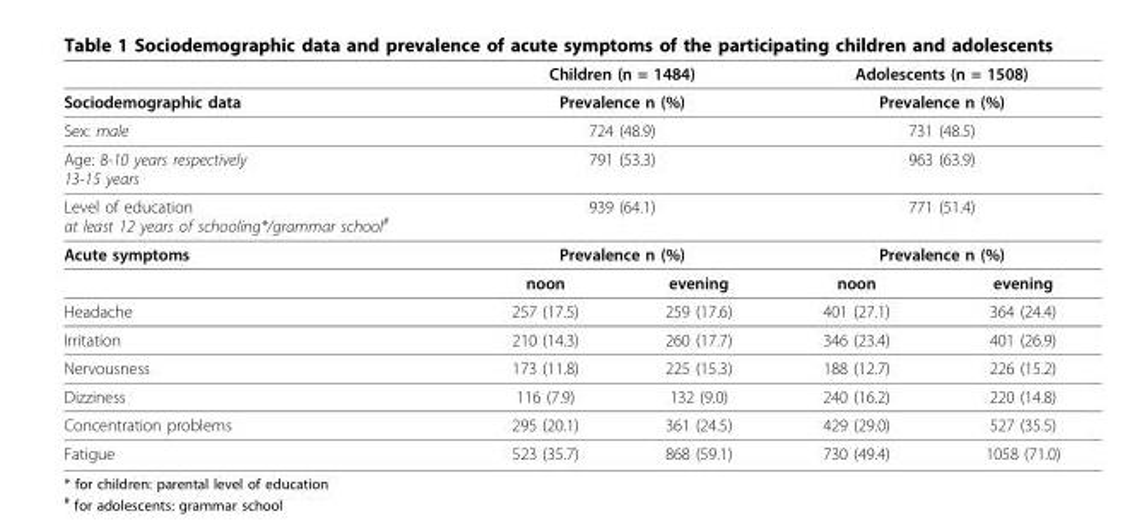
<table><thead><tr><td></td><td colspan="2">Children (n = 1484)</td><td colspan="2">Adolescents (n = 1508)</td></tr></thead><tbody><tr><td>Sociodemographic data</td><td colspan="2">Prevalence n (%)</td><td colspan="2">Prevalence n (%)</td></tr><tr><td>Sex: male</td><td colspan="2">724 (48.9)</td><td colspan="2">731 (48.5)</td></tr><tr><td>Age: 8-10 years respectively 13-15 years</td><td colspan="2">791 (53.3)</td><td colspan="2">963 (63.9)</td></tr><tr><td>Level of education at least 12 years of schooling*/grammar school<sup>#</sup></td><td colspan="2">939 (64.1)</td><td colspan="2">771 (51.4)</td></tr><tr><td rowspan="2">Acute symptoms</td><td colspan="2">Prevalence n (%)</td><td colspan="2">Prevalence n (%)</td></tr><tr><td>noon</td><td>evening</td><td>noon</td><td>evening</td></tr><tr><td>Headache</td><td>257 (17.5)</td><td>259 (17.6)</td><td>401 (27.1)</td><td>364 (24.4)</td></tr><tr><td>Irritation</td><td>210 (14.3)</td><td>260 (17.7)</td><td>346 (23.4)</td><td>401 (26.9)</td></tr><tr><td>Nervousness</td><td>173 (11.8)</td><td>225 (15.3)</td><td>188 (12.7)</td><td>226 (15.2)</td></tr><tr><td>Dizziness</td><td>116 (7.9)</td><td>132 (9.0)</td><td>240 (16.2)</td><td>220 (14.8)</td></tr><tr><td>Concentration problems</td><td>295 (20.1)</td><td>361 (24.5)</td><td>429 (29.0)</td><td>527 (35.5)</td></tr><tr><td>Fatigue</td><td>523 (35.7)</td><td>868 (59.1)</td><td>730 (49.4)</td><td>1058 (71.0)</td></tr></tbody></table>